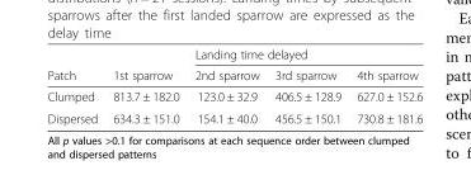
<table><thead><tr><td rowspan="2">Patch</td><td rowspan="2">1st sparrow</td><td colspan="3">Landing time delayed</td></tr><tr><td>2nd sparrow</td><td>3rd sparrow</td><td>4th sparrow</td></tr></thead><tbody><tr><td>Clumped</td><td>813.7 ± 182.0</td><td>123.0 ± 32.9</td><td>406.5 ± 128.9</td><td>627.0 ± 152.6</td></tr><tr><td>Dispersed</td><td>634.3 ± 151.0</td><td>154.1 ± 40.0</td><td>456.5 ± 150.1</td><td>730.8 ± 181.6</td></tr></tbody></table>